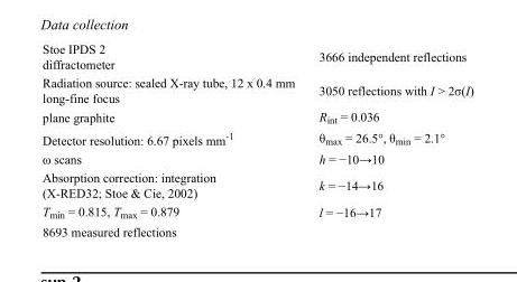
<table><tbody><tr><td>Stoe IPDS 2 diffractometer</td><td>3666 independent reflections</td></tr><tr><td>Radiation source: sealed X-ray tube, 12 x 0.4 mm long-fine focus</td><td>3050 reflections with I &gt; 2σ(I)</td></tr><tr><td>plane graphite</td><td>R<sub>int</sub> = 0.036</td></tr><tr><td>Detector resolution: 6.67 pixels mm<sup>-1</sup></td><td>θ<sub>max</sub> = 26.5°, θ<sub>min</sub> = 2.1°</td></tr><tr><td>ω scans</td><td>h = −10→10</td></tr><tr><td>Absorption correction: integration (X-RED32; Stoe &amp; Cie, 2002)</td><td>k = −14→16</td></tr><tr><td>T<sub>min</sub> = 0.815, T<sub>max</sub> = 0.879</td><td>l = −16→17</td></tr><tr><td>8693 measured reflections</td><td></td></tr></tbody></table>